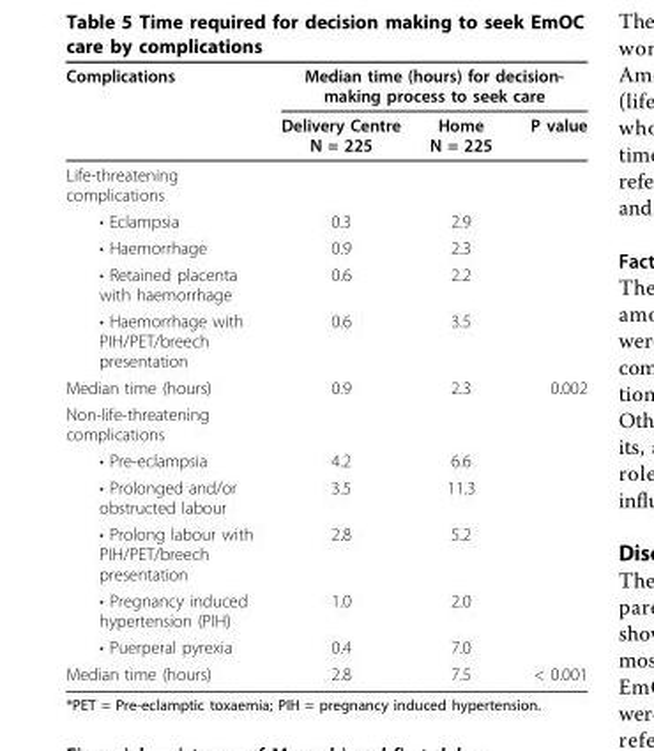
<table><thead><tr><td rowspan="2">Complications</td><td colspan="3">Median time (hours) for decision- making process to seek care</td></tr><tr><td>Delivery Centre N = 225</td><td>Home N = 225</td><td>P value</td></tr></thead><tbody><tr><td colspan="4">Life-threatening complications</td></tr><tr><td>• Eclampsia</td><td>0.3</td><td>2.9</td><td></td></tr><tr><td>• Haemorrhage</td><td>0.9</td><td>2.3</td><td></td></tr><tr><td>• Retained placenta with haemorrhage</td><td>0.6</td><td>2.2</td><td></td></tr><tr><td>• Haemorrhage with PIH/PET/breech presentation</td><td>0.6</td><td>3.5</td><td></td></tr><tr><td>Median time (hours)</td><td>0.9</td><td>2.3</td><td>0.002</td></tr><tr><td colspan="4">Non-life-threatening complications</td></tr><tr><td>• Pre-eclampsia</td><td>4.2</td><td>6.6</td><td></td></tr><tr><td>• Prolonged and/or obstructed labour</td><td>3.5</td><td>11.3</td><td></td></tr><tr><td>• Prolong labour with PIH/PET/breech presentation</td><td>2.8</td><td>5.2</td><td></td></tr><tr><td>• Pregnancy induced hypertension (PIH)</td><td>1.0</td><td>2.0</td><td></td></tr><tr><td>• Puerperal pyrexia</td><td>0.4</td><td>7.0</td><td></td></tr><tr><td>Median time (hours)</td><td>2.8</td><td>7.5</td><td>&lt; 0.001</td></tr></tbody></table>